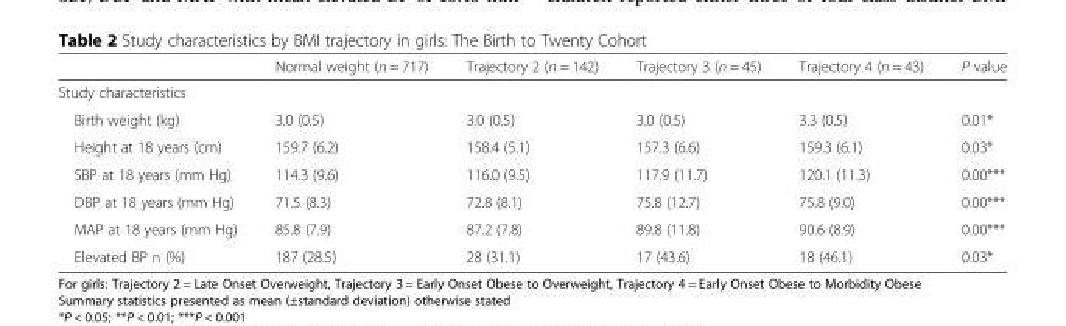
<table><thead><tr><td></td><td>Normal weight (n = 717)</td><td>Trajectory 2 (n = 142)</td><td>Trajectory 3 (n = 45)</td><td>Trajectory 4 (n = 43)</td><td>P value</td></tr></thead><tbody><tr><td colspan="6">Study characteristics</td></tr><tr><td>Birth weight (kg)</td><td>3.0 (0.5)</td><td>3.0 (0.5)</td><td>3.0 (0.5)</td><td>3.3 (0.5)</td><td>0.01*</td></tr><tr><td>Height at 18 years (cm)</td><td>159.7 (6.2)</td><td>158.4 (5.1)</td><td>157.3 (6.6)</td><td>159.3 (6.1)</td><td>0.03*</td></tr><tr><td>SBP at 18 years (mm Hg)</td><td>114.3 (9.6)</td><td>116.0 (9.5)</td><td>117.9 (11.7)</td><td>120.1 (11.3)</td><td>0.00***</td></tr><tr><td>DBP at 18 years (mm Hg)</td><td>71.5 (8.3)</td><td>72.8 (8.1)</td><td>75.8 (12.7)</td><td>75.8 (9.0)</td><td>0.00***</td></tr><tr><td>MAP at 18 years (mm Hg)</td><td>85.8 (7.9)</td><td>87.2 (7.8)</td><td>89.8 (11.8)</td><td>90.6 (8.9)</td><td>0.00***</td></tr><tr><td>Elevated BP n (%)</td><td>187 (28.5)</td><td>28 (31.1)</td><td>17 (43.6)</td><td>18 (46.1)</td><td>0.03*</td></tr></tbody></table>